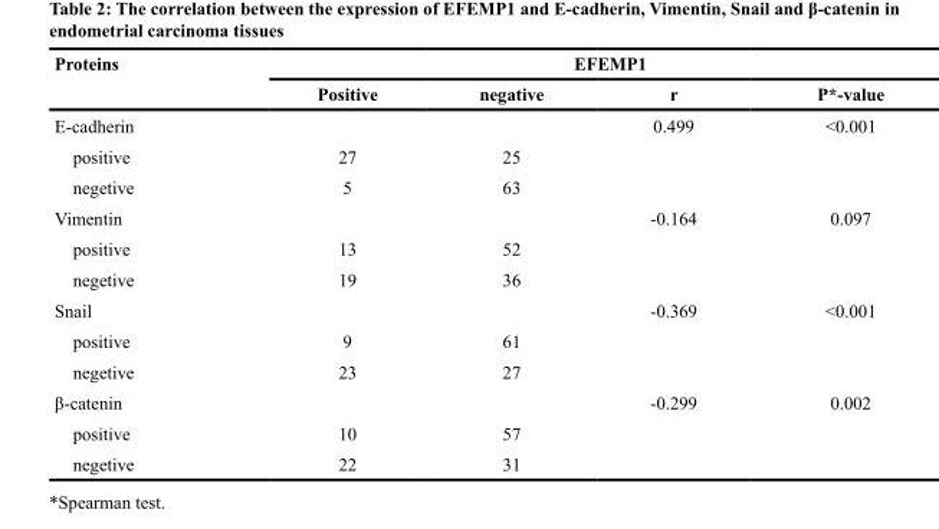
<table><thead><tr><td rowspan="2">Proteins</td><td colspan="4">EFEMP1</td></tr><tr><td>Positive</td><td>negative</td><td>r</td><td>P*-value</td></tr></thead><tbody><tr><td>E-cadherin</td><td></td><td></td><td>0.499</td><td>&lt;0.001</td></tr><tr><td>positive</td><td>27</td><td>25</td><td></td><td></td></tr><tr><td>negetive</td><td>5</td><td>63</td><td></td><td></td></tr><tr><td>Vimentin</td><td></td><td></td><td>-0.164</td><td>0.097</td></tr><tr><td>positive</td><td>13</td><td>52</td><td></td><td></td></tr><tr><td>negetive</td><td>19</td><td>36</td><td></td><td></td></tr><tr><td>Snail</td><td></td><td></td><td>-0.369</td><td>&lt;0.001</td></tr><tr><td>positive</td><td>9</td><td>61</td><td></td><td></td></tr><tr><td>negetive</td><td>23</td><td>27</td><td></td><td></td></tr><tr><td>β-catenin</td><td></td><td></td><td>-0.299</td><td>0.002</td></tr><tr><td>positive</td><td>10</td><td>57</td><td></td><td></td></tr><tr><td>negetive</td><td>22</td><td>31</td><td></td><td></td></tr></tbody></table>